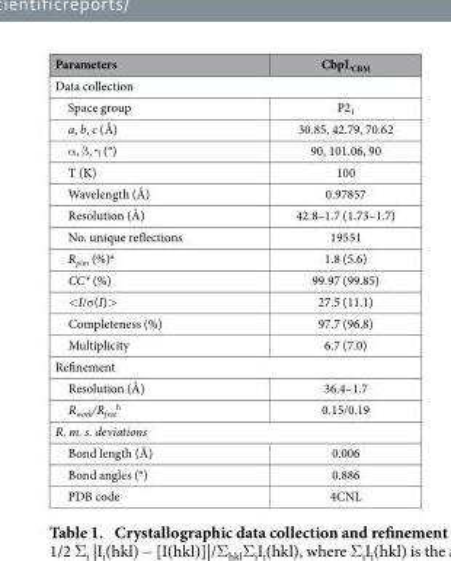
<table><thead><tr><td>Parameters</td><td>CbpL<sub>CBM</sub></td></tr></thead><tbody><tr><td colspan="2">Data collection</td></tr><tr><td>Space group</td><td>P2<sub>1</sub></td></tr><tr><td>a, b, c (Å)</td><td>30.85, 42.79, 70.62</td></tr><tr><td>α , β , γ (°)</td><td>90, 101.06, 90</td></tr><tr><td>T (K)</td><td>100</td></tr><tr><td>Wavelength (Å)</td><td>0.97857</td></tr><tr><td>Resolution (Å)</td><td>42.8–1.7 (1.73–1.7)</td></tr><tr><td>No. unique reflections</td><td>19551</td></tr><tr><td>R<sub>pim</sub> (%)<sup>a</sup></td><td>1.8 (5.6)</td></tr><tr><td>CC* (%)</td><td>99.97 (99.85)</td></tr><tr><td>&lt;I/σ (I)&gt;</td><td>27.5 (11.1)</td></tr><tr><td>Completeness (%)</td><td>97.7 (96.8)</td></tr><tr><td>Multiplicity</td><td>6.7 (7.0)</td></tr><tr><td colspan="2">Refinement</td></tr><tr><td>Resolution (Å)</td><td>36.4–1.7</td></tr><tr><td>R<sub>work</sub>/R<sub>free</sub> <sup>b</sup></td><td>0.15/0.19</td></tr><tr><td colspan="2">R. m. s. deviations</td></tr><tr><td>Bond length (Å)</td><td>0.006</td></tr><tr><td>Bond angles (°)</td><td>0.886</td></tr><tr><td>PDB code</td><td>4CNL</td></tr></tbody></table>